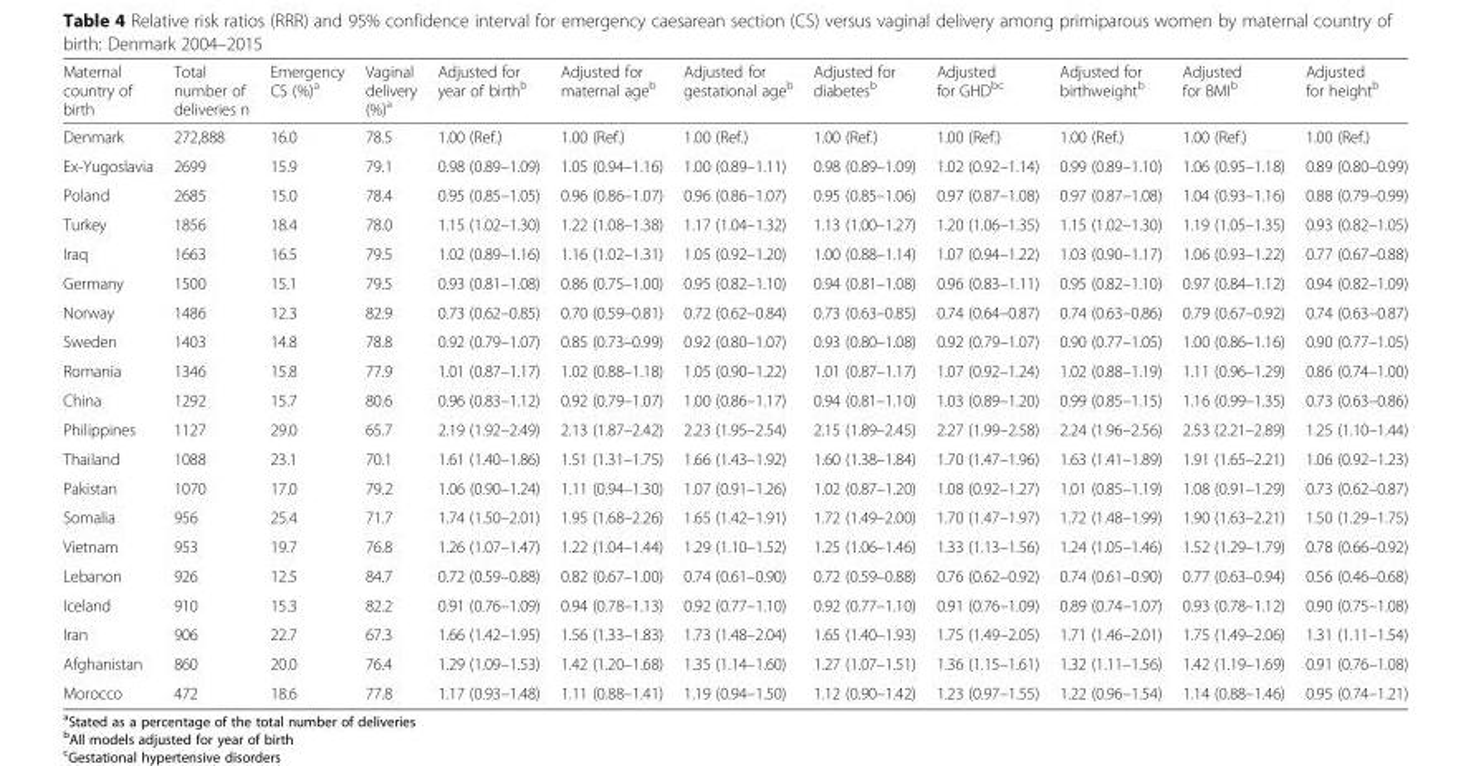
<table><thead><tr><td>Maternal country of birth</td><td>Total number of deliveries n</td><td>Emergency CS (%)<sup>a</sup></td><td>Vaginal delivery (%)<sup>a</sup></td><td>Adjusted for year of birth<sup>b</sup></td><td>Adjusted for maternal age<sup>b</sup></td><td>Adjusted for gestational age<sup>b</sup></td><td>Adjusted for diabetes<sup>b</sup></td><td>Adjusted for GHD<sup>bc</sup></td><td>Adjusted for birthweight<sup>b</sup></td><td>Adjusted for BMI<sup>b</sup></td><td>Adjusted for height<sup>b</sup></td></tr></thead><tbody><tr><td>Denmark</td><td>272,888</td><td>16.0</td><td>78.5</td><td>1.00 (Ref.)</td><td>1.00 (Ref.)</td><td>1.00 (Ref.)</td><td>1.00 (Ref.)</td><td>1.00 (Ref.)</td><td>1.00 (Ref.)</td><td>1.00 (Ref.)</td><td>1.00 (Ref.)</td></tr><tr><td>Ex-Yugoslavia</td><td>2699</td><td>15.9</td><td>79.1</td><td>0.98 (0.89–1.09)</td><td>1.05 (0.94–1.16)</td><td>1.00 (0.89–1.11)</td><td>0.98 (0.89–1.09)</td><td>1.02 (0.92–1.14)</td><td>0.99 (0.89–1.10)</td><td>1.06 (0.95–1.18)</td><td>0.89 (0.80–0.99)</td></tr><tr><td>Poland</td><td>2685</td><td>15.0</td><td>78.4</td><td>0.95 (0.85–1.05)</td><td>0.96 (0.86–1.07)</td><td>0.96 (0.86–1.07)</td><td>0.95 (0.85–1.06)</td><td>0.97 (0.87–1.08)</td><td>0.97 (0.87–1.08)</td><td>1.04 (0.93–1.16)</td><td>0.88 (0.79–0.99)</td></tr><tr><td>Turkey</td><td>1856</td><td>18.4</td><td>78.0</td><td>1.15 (1.02–1.30)</td><td>1.22 (1.08–1.38)</td><td>1.17 (1.04–1.32)</td><td>1.13 (1.00–1.27)</td><td>1.20 (1.06–1.35)</td><td>1.15 (1.02–1.30)</td><td>1.19 (1.05–1.35)</td><td>0.93 (0.82–1.05)</td></tr><tr><td>Iraq</td><td>1663</td><td>16.5</td><td>79.5</td><td>1.02 (0.89–1.16)</td><td>1.16 (1.02–1.31)</td><td>1.05 (0.92–1.20)</td><td>1.00 (0.88–1.14)</td><td>1.07 (0.94–1.22)</td><td>1.03 (0.90–1.17)</td><td>1.06 (0.93–1.22)</td><td>0.77 (0.67–0.88)</td></tr><tr><td>Germany</td><td>1500</td><td>15.1</td><td>79.5</td><td>0.93 (0.81–1.08)</td><td>0.86 (0.75–1.00)</td><td>0.95 (0.82–1.10)</td><td>0.94 (0.81–1.08)</td><td>0.96 (0.83–1.11)</td><td>0.95 (0.82–1.10)</td><td>0.97 (0.84–1.12)</td><td>0.94 (0.82–1.09)</td></tr><tr><td>Norway</td><td>1486</td><td>12.3</td><td>82.9</td><td>0.73 (0.62–0.85)</td><td>0.70 (0.59–0.81)</td><td>0.72 (0.62–0.84)</td><td>0.73 (0.63–0.85)</td><td>0.74 (0.64–0.87)</td><td>0.74 (0.63–0.86)</td><td>0.79 (0.67–0.92)</td><td>0.74 (0.63–0.87)</td></tr><tr><td>Sweden</td><td>1403</td><td>14.8</td><td>78.8</td><td>0.92 (0.79–1.07)</td><td>0.85 (0.73–0.99)</td><td>0.92 (0.80–1.07)</td><td>0.93 (0.80–1.08)</td><td>0.92 (0.79–1.07)</td><td>0.90 (0.77–1.05)</td><td>1.00 (0.86–1.16)</td><td>0.90 (0.77–1.05)</td></tr><tr><td>Romania</td><td>1346</td><td>15.8</td><td>77.9</td><td>1.01 (0.87–1.17)</td><td>1.02 (0.88–1.18)</td><td>1.05 (0.90–1.22)</td><td>1.01 (0.87–1.17)</td><td>1.07 (0.92–1.24)</td><td>1.02 (0.88–1.19)</td><td>1.11 (0.96–1.29)</td><td>0.86 (0.74–1.00)</td></tr><tr><td>China</td><td>1292</td><td>15.7</td><td>80.6</td><td>0.96 (0.83–1.12)</td><td>0.92 (0.79–1.07)</td><td>1.00 (0.86–1.17)</td><td>0.94 (0.81–1.10)</td><td>1.03 (0.89–1.20)</td><td>0.99 (0.85–1.15)</td><td>1.16 (0.99–1.35)</td><td>0.73 (0.63–0.86)</td></tr><tr><td>Philippines</td><td>1127</td><td>29.0</td><td>65.7</td><td>2.19 (1.92–2.49)</td><td>2.13 (1.87–2.42)</td><td>2.23 (1.95–2.54)</td><td>2.15 (1.89–2.45)</td><td>2.27 (1.99–2.58)</td><td>2.24 (1.96–2.56)</td><td>2.53 (2.21–2.89)</td><td>1.25 (1.10–1.44)</td></tr><tr><td>Thailand</td><td>1088</td><td>23.1</td><td>70.1</td><td>1.61 (1.40–1.86)</td><td>1.51 (1.31–1.75)</td><td>1.66 (1.43–1.92)</td><td>1.60 (1.38–1.84)</td><td>1.70 (1.47–1.96)</td><td>1.63 (1.41–1.89)</td><td>1.91 (1.65–2.21)</td><td>1.06 (0.92–1.23)</td></tr><tr><td>Pakistan</td><td>1070</td><td>17.0</td><td>79.2</td><td>1.06 (0.90–1.24)</td><td>1.11 (0.94–1.30)</td><td>1.07 (0.91–1.26)</td><td>1.02 (0.87–1.20)</td><td>1.08 (0.92–1.27)</td><td>1.01 (0.85–1.19)</td><td>1.08 (0.91–1.29)</td><td>0.73 (0.62–0.87)</td></tr><tr><td>Somalia</td><td>956</td><td>25.4</td><td>71.7</td><td>1.74 (1.50–2.01)</td><td>1.95 (1.68–2.26)</td><td>1.65 (1.42–1.91)</td><td>1.72 (1.49–2.00)</td><td>1.70 (1.47–1.97)</td><td>1.72 (1.48–1.99)</td><td>1.90 (1.63–2.21)</td><td>1.50 (1.29–1.75)</td></tr><tr><td>Vietnam</td><td>953</td><td>19.7</td><td>76.8</td><td>1.26 (1.07–1.47)</td><td>1.22 (1.04–1.44)</td><td>1.29 (1.10–1.52)</td><td>1.25 (1.06–1.46)</td><td>1.33 (1.13–1.56)</td><td>1.24 (1.05–1.46)</td><td>1.52 (1.29–1.79)</td><td>0.78 (0.66–0.92)</td></tr><tr><td>Lebanon</td><td>926</td><td>12.5</td><td>84.7</td><td>0.72 (0.59–0.88)</td><td>0.82 (0.67–1.00)</td><td>0.74 (0.61–0.90)</td><td>0.72 (0.59–0.88)</td><td>0.76 (0.62–0.92)</td><td>0.74 (0.61–0.90)</td><td>0.77 (0.63–0.94)</td><td>0.56 (0.46–0.68)</td></tr><tr><td>Iceland</td><td>910</td><td>15.3</td><td>82.2</td><td>0.91 (0.76–1.09)</td><td>0.94 (0.78–1.13)</td><td>0.92 (0.77–1.10)</td><td>0.92 (0.77–1.10)</td><td>0.91 (0.76–1.09)</td><td>0.89 (0.74–1.07)</td><td>0.93 (0.78–1.12)</td><td>0.90 (0.75–1.08)</td></tr><tr><td>Iran</td><td>906</td><td>22.7</td><td>67.3</td><td>1.66 (1.42–1.95)</td><td>1.56 (1.33–1.83)</td><td>1.73 (1.48–2.04)</td><td>1.65 (1.40–1.93)</td><td>1.75 (1.49–2.05)</td><td>1.71 (1.46–2.01)</td><td>1.75 (1.49–2.06)</td><td>1.31 (1.11–1.54)</td></tr><tr><td>Afghanistan</td><td>860</td><td>20.0</td><td>76.4</td><td>1.29 (1.09–1.53)</td><td>1.42 (1.20–1.68)</td><td>1.35 (1.14–1.60)</td><td>1.27 (1.07–1.51)</td><td>1.36 (1.15–1.61)</td><td>1.32 (1.11–1.56)</td><td>1.42 (1.19–1.69)</td><td>0.91 (0.76–1.08)</td></tr><tr><td>Morocco</td><td>472</td><td>18.6</td><td>77.8</td><td>1.17 (0.93–1.48)</td><td>1.11 (0.88–1.41)</td><td>1.19 (0.94–1.50)</td><td>1.12 (0.90–1.42)</td><td>1.23 (0.97–1.55)</td><td>1.22 (0.96–1.54)</td><td>1.14 (0.88–1.46)</td><td>0.95 (0.74–1.21)</td></tr></tbody></table>